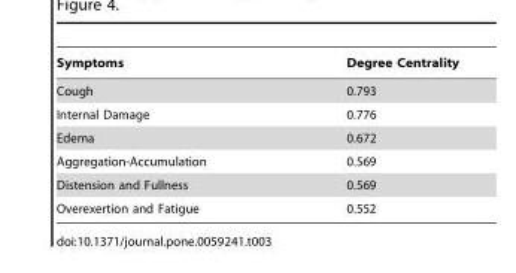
<table><thead><tr><td>Symptoms</td><td>Degree Centrality</td></tr></thead><tbody><tr><td>Cough</td><td>0.793</td></tr><tr><td>Internal Damage</td><td>0.776</td></tr><tr><td>Edema</td><td>0.672</td></tr><tr><td>Aggregation-Accumulation</td><td>0.569</td></tr><tr><td>Distension and Fullness</td><td>0.569</td></tr><tr><td>Overexertion and Fatigue</td><td>0.552</td></tr></tbody></table>